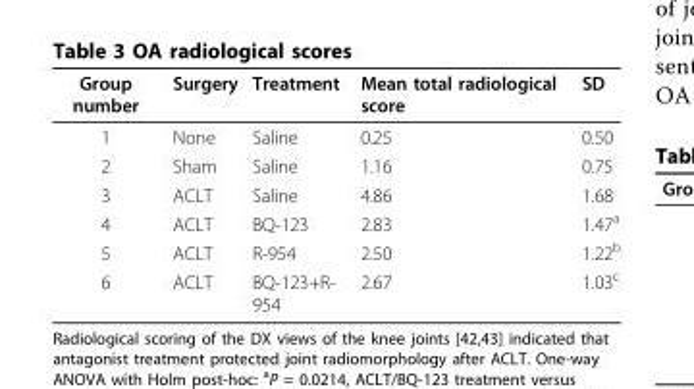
<table><thead><tr><td>Group number</td><td>Surgery</td><td>Treatment</td><td>Mean total radiological score</td><td>SD</td></tr></thead><tbody><tr><td>1</td><td>None</td><td>Saline</td><td>0.25</td><td>0.50</td></tr><tr><td>2</td><td>Sham</td><td>Saline</td><td>1.16</td><td>0.75</td></tr><tr><td>3</td><td>ACLT</td><td>Saline</td><td>4.86</td><td>1.68</td></tr><tr><td>4</td><td>ACLT</td><td>BQ-123</td><td>2.83</td><td>1.47<sup>a</sup></td></tr><tr><td>5</td><td>ACLT</td><td>R-954</td><td>2.50</td><td>1.22<sup>b</sup></td></tr><tr><td>6</td><td>ACLT</td><td>BQ-123+R- 954</td><td>2.67</td><td>1.03<sup>c</sup></td></tr></tbody></table>